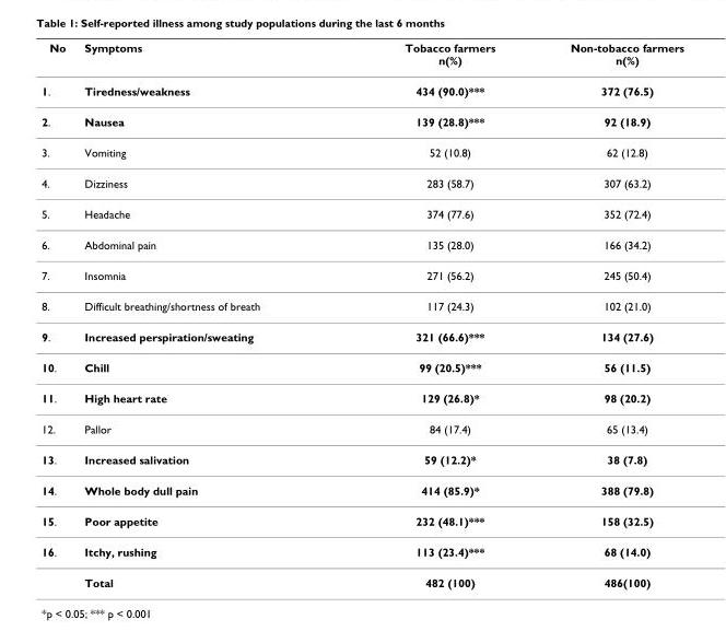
<table><thead><tr><td>No</td><td>Symptoms</td><td>Tobacco farmers n(%)</td><td>Non-tobacco farmers n(%)</td></tr></thead><tbody><tr><td>1.</td><td>Tiredness/weakness</td><td>434 (90.0)***</td><td>372 (76.5)</td></tr><tr><td>2.</td><td>Nausea</td><td>139 (28.8)***</td><td>92 (18.9)</td></tr><tr><td>3.</td><td>Vomiting</td><td>52 (10.8)</td><td>62 (12.8)</td></tr><tr><td>4.</td><td>Dizziness</td><td>283 (58.7)</td><td>307 (63.2)</td></tr><tr><td>5.</td><td>Headache</td><td>374 (77.6)</td><td>352 (72.4)</td></tr><tr><td>6.</td><td>Abdominal pain</td><td>135 (28.0)</td><td>166 (34.2)</td></tr><tr><td>7.</td><td>Insomnia</td><td>271 (56.2)</td><td>245 (50.4)</td></tr><tr><td>8.</td><td>Difficult breathing/shortness of breath</td><td>117 (24.3)</td><td>102 (21.0)</td></tr><tr><td>9.</td><td>Increased perspiration/sweating</td><td>321 (66.6)***</td><td>134 (27.6)</td></tr><tr><td>10.</td><td>Chill</td><td>99 (20.5)***</td><td>56 (11.5)</td></tr><tr><td>11.</td><td>High heart rate</td><td>129 (26.8)*</td><td>98 (20.2)</td></tr><tr><td>12.</td><td>Pallor</td><td>84 (17.4)</td><td>65 (13.4)</td></tr><tr><td>13.</td><td>Increased salivation</td><td>59 (12.2)*</td><td>38 (7.8)</td></tr><tr><td>14.</td><td>Whole body dull pain</td><td>414 (85.9)*</td><td>388 (79.8)</td></tr><tr><td>15.</td><td>Poor appetite</td><td>232 (48.1)***</td><td>158 (32.5)</td></tr><tr><td rowspan="2">16.</td><td>Itchy, rushing</td><td>113 (23.4)***</td><td>68 (14.0)</td></tr><tr><td>Total</td><td>482 (100)</td><td>486(100)</td></tr></tbody></table>